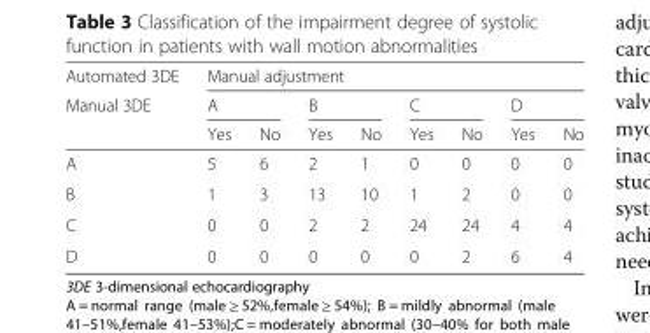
<table><thead><tr><td rowspan="3">Automated 3DE Manual 3DE</td><td colspan="8">Manual adjustment</td></tr><tr><td colspan="2">A</td><td colspan="2">B</td><td colspan="2">C</td><td colspan="2">D</td></tr><tr><td>Yes</td><td>No</td><td>Yes</td><td>No</td><td>Yes</td><td>No</td><td>Yes</td><td>No</td></tr></thead><tbody><tr><td>A</td><td>5</td><td>6</td><td>2</td><td>1</td><td>0</td><td>0</td><td>0</td><td>0</td></tr><tr><td>B</td><td>1</td><td>3</td><td>13</td><td>10</td><td>1</td><td>2</td><td>0</td><td>0</td></tr><tr><td>C</td><td>0</td><td>0</td><td>2</td><td>2</td><td>24</td><td>24</td><td>4</td><td>4</td></tr><tr><td>D</td><td>0</td><td>0</td><td>0</td><td>0</td><td>0</td><td>2</td><td>6</td><td>4</td></tr></tbody></table>